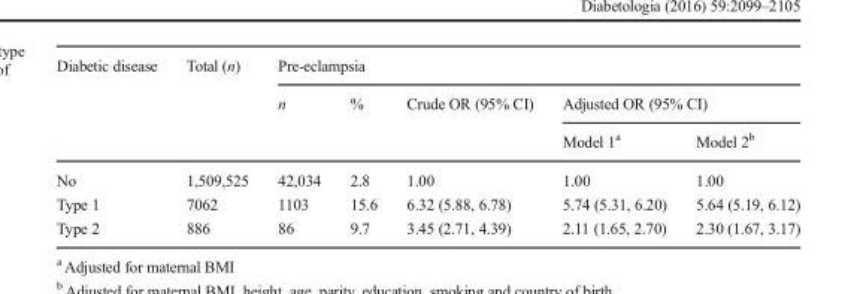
<table><thead><tr><td rowspan="3">Diabetic disease</td><td rowspan="3">Total (n)</td><td colspan="5">Pre-eclampsia</td></tr><tr><td rowspan="2">n</td><td rowspan="2">%</td><td rowspan="2">Crude OR (95% CI)</td><td colspan="2">Adjusted OR (95% CI)</td></tr><tr><td>Model 1<sup>a</sup></td><td>Model 2<sup>b</sup></td></tr></thead><tbody><tr><td>No</td><td>1,509,525</td><td>42,034</td><td>2.8</td><td>1.00</td><td>1.00</td><td>1.00</td></tr><tr><td>Type 1</td><td>7062</td><td>1103</td><td>15.6</td><td>6.32 (5.88, 6.78)</td><td>5.74 (5.31, 6.20)</td><td>5.64 (5.19, 6.12)</td></tr><tr><td>Type 2</td><td>886</td><td>86</td><td>9.7</td><td>3.45 (2.71, 4.39)</td><td>2.11 (1.65, 2.70)</td><td>2.30 (1.67, 3.17)</td></tr></tbody></table>